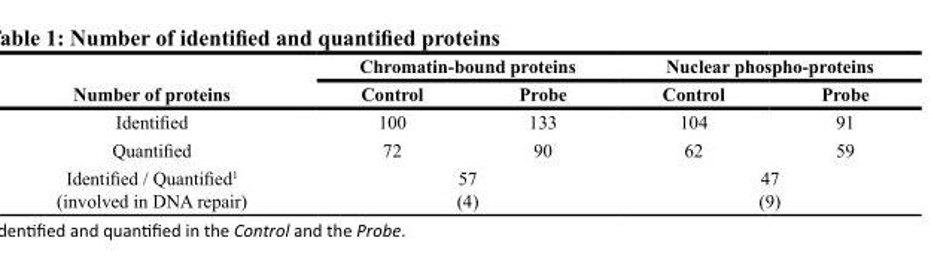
<table><thead><tr><td rowspan="2">Number of proteins</td><td colspan="2">Chromatin-bound proteins</td><td colspan="2">Nuclear phospho-proteins</td></tr><tr><td>Control</td><td>Probe</td><td>Control</td><td>Probe</td></tr></thead><tbody><tr><td>Identified</td><td>100</td><td>133</td><td>104</td><td>91</td></tr><tr><td>Quantified</td><td>72</td><td>90</td><td>62</td><td>59</td></tr><tr><td>Identified / Quantified<sup>1</sup></td><td colspan="2">57</td><td colspan="2">47</td></tr><tr><td>(involved in DNA repair)</td><td colspan="2">(4)</td><td colspan="2">(9)</td></tr></tbody></table>